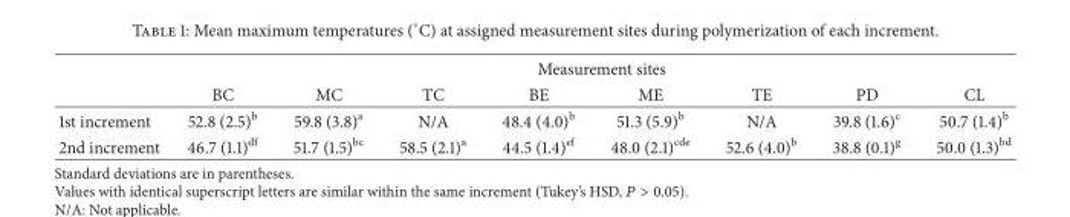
<table><thead><tr><td rowspan="2"></td><td colspan="8">Measurement sites</td></tr><tr><td>BC</td><td>MC</td><td>TC</td><td>BE</td><td>ME</td><td>TE</td><td>PD</td><td>CL</td></tr></thead><tbody><tr><td>1st increment</td><td>52.8 (2.5)<sup>b</sup></td><td>59.8 (3.8)<sup>a</sup></td><td>N/A</td><td>48.4 (4.0)<sup>b</sup></td><td>51.3 (5.9)<sup>b</sup></td><td>N/A</td><td>39.8 (1.6)<sup>c</sup></td><td>50.7 (1.4)<sup>b</sup></td></tr><tr><td>2nd increment</td><td>46.7 (1.1)<sup>df</sup></td><td>51.7 (1.5)<sup>bc</sup></td><td>58.5 (2.1)<sup>a</sup></td><td>44.5 (1.4)<sup>ef</sup></td><td>48.0 (2.1)<sup>cde</sup></td><td>52.6 (4.0)<sup>b</sup></td><td>38.8 (0.1)<sup>g</sup></td><td>50.0 (1.3)<sup>bd</sup></td></tr></tbody></table>